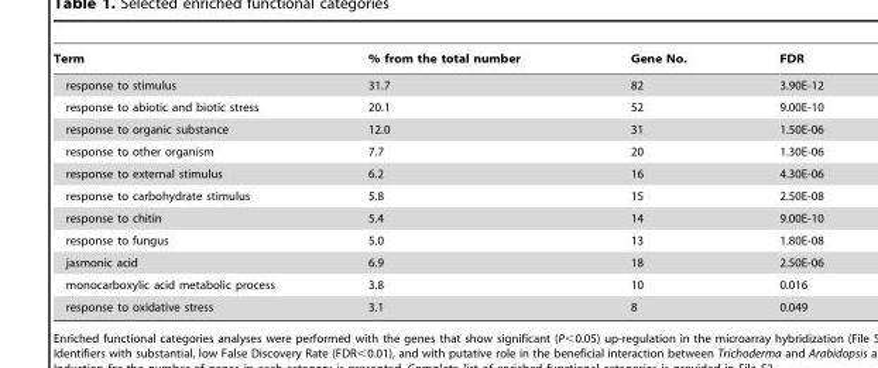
<table><thead><tr><td>Term</td><td>% from the total number</td><td>Gene No.</td><td>FDR</td></tr></thead><tbody><tr><td>response to stimulus</td><td>31.7</td><td>82</td><td>3.90E-12</td></tr><tr><td>response to abiotic and biotic stress</td><td>20.1</td><td>52</td><td>9.00E-10</td></tr><tr><td>response to organic substance</td><td>12.0</td><td>31</td><td>1.50E-06</td></tr><tr><td>response to other organism</td><td>7.7</td><td>20</td><td>1.30E-06</td></tr><tr><td>response to external stimulus</td><td>6.2</td><td>16</td><td>4.30E-06</td></tr><tr><td>response to carbohydrate stimulus</td><td>5.8</td><td>15</td><td>2.50E-08</td></tr><tr><td>response to chitin</td><td>5.4</td><td>14</td><td>9.00E-10</td></tr><tr><td>response to fungus</td><td>5.0</td><td>13</td><td>1.80E-08</td></tr><tr><td>jasmonic acid</td><td>6.9</td><td>18</td><td>2.50E-06</td></tr><tr><td>monocarboxylic acid metabolic process</td><td>3.8</td><td>10</td><td>0.016</td></tr><tr><td>response to oxidative stress</td><td>3.1</td><td>8</td><td>0.049</td></tr></tbody></table>